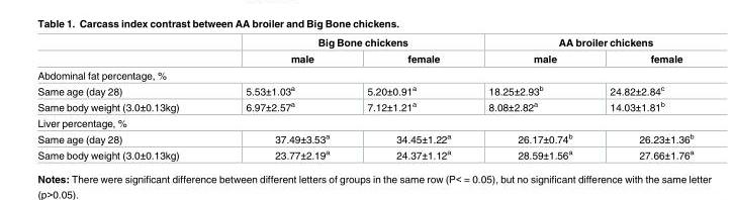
<table><thead><tr><td rowspan="2"></td><td colspan="2">Big Bone chickens</td><td colspan="2">AA broiler chickens</td></tr><tr><td>male</td><td>female</td><td>male</td><td>female</td></tr></thead><tbody><tr><td colspan="5">Abdominal fat percentage, %</td></tr><tr><td>Same age (day 28)</td><td>5.53±1.03<sup>a</sup></td><td>5.20±0.91<sup>a</sup></td><td>18.25±2.93<sup>b</sup></td><td>24.82±2.84<sup>c</sup></td></tr><tr><td>Same body weight (3.0±0.13kg)</td><td>6.97±2.57<sup>a</sup></td><td>7.12±1.21<sup>a</sup></td><td>8.08±2.82<sup>a</sup></td><td>14.03±1.81<sup>b</sup></td></tr><tr><td colspan="5">Liver percentage, %</td></tr><tr><td>Same age (day 28)</td><td>37.49±3.53<sup>a</sup></td><td>34.45±1.22<sup>a</sup></td><td>26.17±0.74<sup>b</sup></td><td>26.23±1.36<sup>b</sup></td></tr><tr><td>Same body weight (3.0±0.13kg)</td><td>23.77±2.19<sup>a</sup></td><td>24.37±1.12<sup>a</sup></td><td>28.59±1.56<sup>a</sup></td><td>27.66±1.76<sup>a</sup></td></tr></tbody></table>